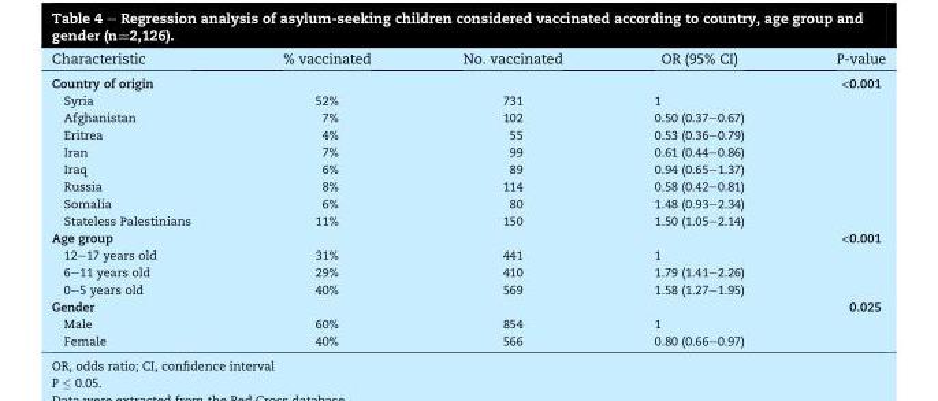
<table><thead><tr><td>Characteristic</td><td>% vaccinated</td><td>No. vaccinated</td><td>OR (95% CI)</td><td>P-value</td></tr></thead><tbody><tr><td>Country of origin</td><td></td><td></td><td></td><td>&lt;0.001</td></tr><tr><td>Syria</td><td>52%</td><td>731</td><td>1</td><td></td></tr><tr><td>Afghanistan</td><td>7%</td><td>102</td><td>0.50 (0.37–0.67)</td><td></td></tr><tr><td>Eritrea</td><td>4%</td><td>55</td><td>0.53 (0.36–0.79)</td><td></td></tr><tr><td>Iran</td><td>7%</td><td>99</td><td>0.61 (0.44–0.86)</td><td></td></tr><tr><td>Iraq</td><td>6%</td><td>89</td><td>0.94 (0.65–1.37)</td><td></td></tr><tr><td>Russia</td><td>8%</td><td>114</td><td>0.58 (0.42–0.81)</td><td></td></tr><tr><td>Somalia</td><td>6%</td><td>80</td><td>1.48 (0.93–2.34)</td><td></td></tr><tr><td>Stateless Palestinians</td><td>11%</td><td>150</td><td>1.50 (1.05–2.14)</td><td></td></tr><tr><td>Age group</td><td></td><td></td><td></td><td>&lt;0.001</td></tr><tr><td>12–17 years old</td><td>31%</td><td>441</td><td>1</td><td></td></tr><tr><td>6–11 years old</td><td>29%</td><td>410</td><td>1.79 (1.41–2.26)</td><td></td></tr><tr><td>0–5 years old</td><td>40%</td><td>569</td><td>1.58 (1.27–1.95)</td><td></td></tr><tr><td>Gender</td><td></td><td></td><td></td><td>0.025</td></tr><tr><td>Male</td><td>60%</td><td>854</td><td>1</td><td></td></tr><tr><td>Female</td><td>40%</td><td>566</td><td>0.80 (0.66–0.97)</td><td></td></tr></tbody></table>